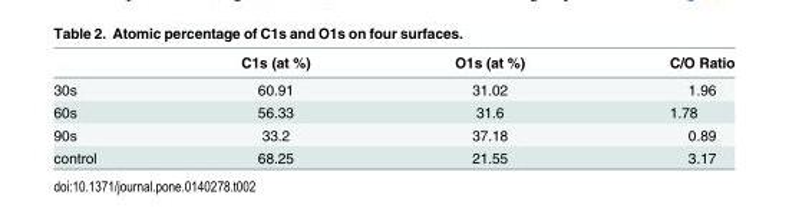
<table><thead><tr><td></td><td>C1s (at %)</td><td>O1s (at %)</td><td>C/O Ratio</td></tr></thead><tbody><tr><td>30s</td><td>60.91</td><td>31.02</td><td>1.96</td></tr><tr><td>60s</td><td>56.33</td><td>31.6</td><td>1.78</td></tr><tr><td>90s</td><td>33.2</td><td>37.18</td><td>0.89</td></tr><tr><td>control</td><td>68.25</td><td>21.55</td><td>3.17</td></tr></tbody></table>